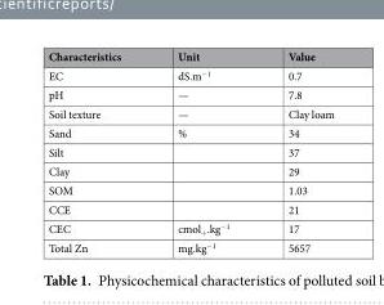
<table><thead><tr><td>Characteristics</td><td>Unit</td><td>Value</td></tr></thead><tbody><tr><td>EC</td><td>dS.m<sup>−1</sup></td><td>0.7</td></tr><tr><td>pH</td><td>—</td><td>7.8</td></tr><tr><td>Soil texture</td><td>—</td><td>Clay loam</td></tr><tr><td>Sand</td><td>%</td><td>34</td></tr><tr><td>Silt</td><td></td><td>37</td></tr><tr><td>Clay</td><td></td><td>29</td></tr><tr><td>SOM</td><td></td><td>1.03</td></tr><tr><td>CCE</td><td></td><td>21</td></tr><tr><td>CEC</td><td>cmol<sub>+</sub>.kg<sup>−1</sup></td><td>17</td></tr><tr><td>Total Zn</td><td>mg.kg<sup>−1</sup></td><td>5657</td></tr></tbody></table>